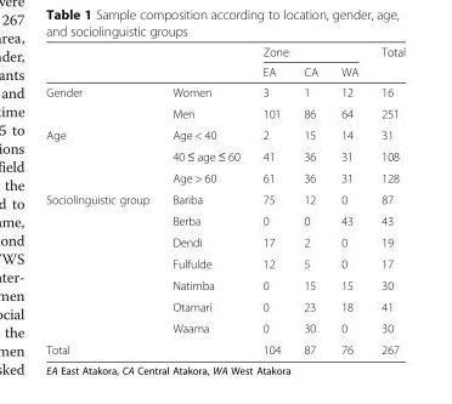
<table><thead><tr><td rowspan="2"></td><td rowspan="2"></td><td colspan="3">Zone</td><td rowspan="2">Total</td></tr><tr><td>EA</td><td>CA</td><td>WA</td></tr></thead><tbody><tr><td rowspan="2">Gender</td><td>Women</td><td>3</td><td>1</td><td>12</td><td>16</td></tr><tr><td>Men</td><td>101</td><td>86</td><td>64</td><td>251</td></tr><tr><td rowspan="3">Age</td><td>Age &lt; 40</td><td>2</td><td>15</td><td>14</td><td>31</td></tr><tr><td>40 ≤ age ≤ 60</td><td>41</td><td>36</td><td>31</td><td>108</td></tr><tr><td>Age &gt; 60</td><td>61</td><td>36</td><td>31</td><td>128</td></tr><tr><td rowspan="7">Sociolinguistic group</td><td>Bariba</td><td>75</td><td>12</td><td>0</td><td>87</td></tr><tr><td>Berba</td><td>0</td><td>0</td><td>43</td><td>43</td></tr><tr><td>Dendi</td><td>17</td><td>2</td><td>0</td><td>19</td></tr><tr><td>Fulfulde</td><td>12</td><td>5</td><td>0</td><td>17</td></tr><tr><td>Natimba</td><td>0</td><td>15</td><td>15</td><td>30</td></tr><tr><td>Otamari</td><td>0</td><td>23</td><td>18</td><td>41</td></tr><tr><td>Waama</td><td>0</td><td>30</td><td>0</td><td>30</td></tr><tr><td>Total</td><td></td><td>104</td><td>87</td><td>76</td><td>267</td></tr></tbody></table>